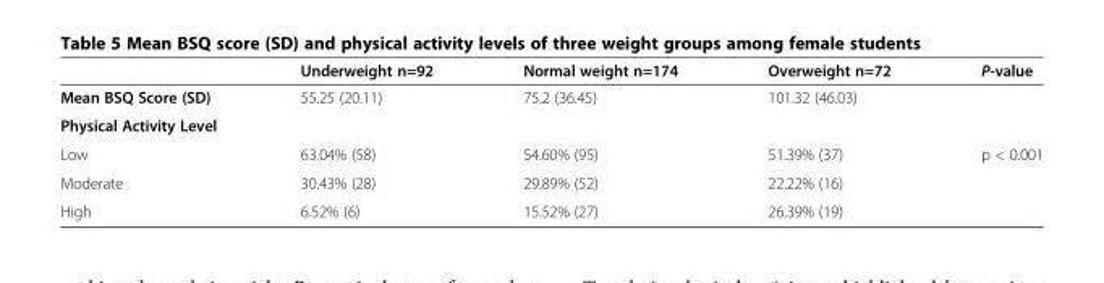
<table><thead><tr><td></td><td>Underweight n=92</td><td>Normal weight n=174</td><td>Overweight n=72</td><td>P-value</td></tr></thead><tbody><tr><td>Mean BSQ Score (SD)</td><td>55.25 (20.11)</td><td>75.2 (36.45)</td><td>101.32 (46.03)</td><td></td></tr><tr><td colspan="5">Physical Activity Level</td></tr><tr><td>Low</td><td>63.04% (58)</td><td>54.60% (95)</td><td>51.39% (37)</td><td>p &lt; 0.001</td></tr><tr><td>Moderate</td><td>30.43% (28)</td><td>29.89% (52)</td><td>22.22% (16)</td><td></td></tr><tr><td>High</td><td>6.52% (6)</td><td>15.52% (27)</td><td>26.39% (19)</td><td></td></tr></tbody></table>